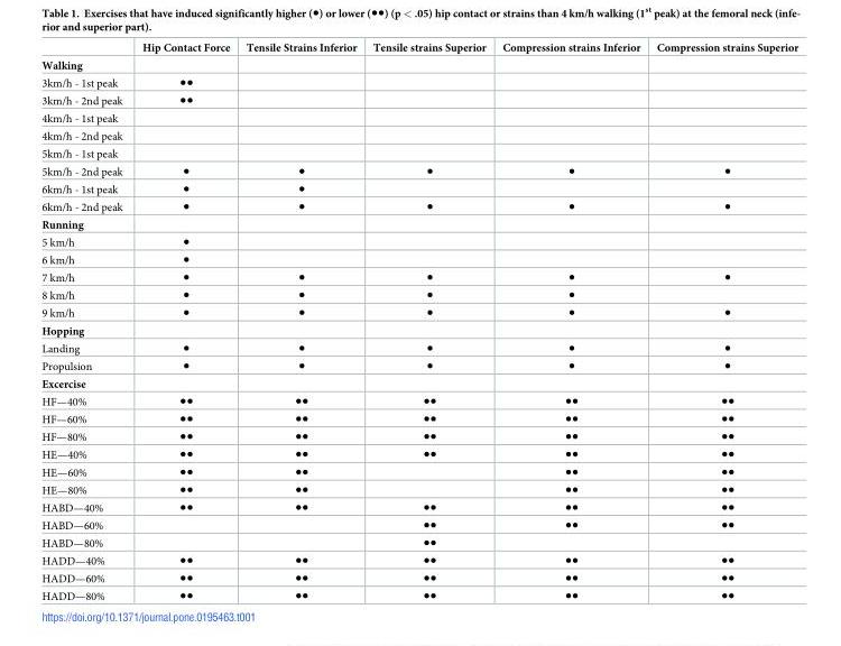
<table><thead><tr><td></td><td>Hip Contact Force</td><td>Tensile Strains Inferior</td><td>Tensile strains Superior</td><td>Compression strains Inferior</td><td>Compression strains Superior</td></tr></thead><tbody><tr><td colspan="6">Walking</td></tr><tr><td>3km/h - 1st peak</td><td>●●</td><td></td><td></td><td></td><td></td></tr><tr><td>3km/h - 2nd peak</td><td>●●</td><td></td><td></td><td></td><td></td></tr><tr><td colspan="6">4km/h - 1st peak</td></tr><tr><td colspan="6">4km/h - 2nd peak</td></tr><tr><td colspan="6">5km/h - 1st peak</td></tr><tr><td>5km/h - 2nd peak</td><td>●</td><td>●</td><td>●</td><td>●</td><td>●</td></tr><tr><td>6km/h - 1st peak</td><td>●</td><td>●</td><td></td><td></td><td></td></tr><tr><td>6km/h - 2nd peak</td><td>●</td><td>●</td><td>●</td><td>●</td><td>●</td></tr><tr><td colspan="6">Running</td></tr><tr><td>5 km/h</td><td>●</td><td></td><td></td><td></td><td></td></tr><tr><td>6 km/h</td><td>●</td><td></td><td></td><td></td><td></td></tr><tr><td>7 km/h</td><td>●</td><td>●</td><td>●</td><td>●</td><td>●</td></tr><tr><td>8 km/h</td><td>●</td><td>●</td><td>●</td><td>●</td><td></td></tr><tr><td>9 km/h</td><td>●</td><td>●</td><td>●</td><td>●</td><td>●</td></tr><tr><td colspan="6">Hopping</td></tr><tr><td>Landing</td><td>●</td><td>●</td><td>●</td><td>●</td><td>●</td></tr><tr><td>Propulsion</td><td>●</td><td>●</td><td>●</td><td>●</td><td>●</td></tr><tr><td colspan="6">Excercise</td></tr><tr><td>HF—40%</td><td>●●</td><td>●●</td><td>●●</td><td>●●</td><td>●●</td></tr><tr><td>HF—60%</td><td>●●</td><td>●●</td><td>●●</td><td>●●</td><td>●●</td></tr><tr><td>HF—80%</td><td>●●</td><td>●●</td><td>●●</td><td>●●</td><td>●●</td></tr><tr><td>HE—40%</td><td>●●</td><td>●●</td><td>●●</td><td>●●</td><td>●●</td></tr><tr><td>HE—60%</td><td>●●</td><td>●●</td><td></td><td>●●</td><td>●●</td></tr><tr><td>HE—80%</td><td>●●</td><td>●●</td><td></td><td>●●</td><td>●●</td></tr><tr><td>HABD—40%</td><td>●●</td><td>●●</td><td>●●</td><td>●●</td><td>●●</td></tr><tr><td>HABD—60%</td><td></td><td></td><td>●●</td><td>●●</td><td>●●</td></tr><tr><td>HABD—80%</td><td></td><td></td><td>●●</td><td></td><td></td></tr><tr><td>HADD—40%</td><td>●●</td><td>●●</td><td>●●</td><td>●●</td><td>●●</td></tr><tr><td>HADD—60%</td><td>●●</td><td>●●</td><td>●●</td><td>●●</td><td>●●</td></tr><tr><td>HADD—80%</td><td>●●</td><td>●●</td><td>●●</td><td>●●</td><td>●●</td></tr></tbody></table>